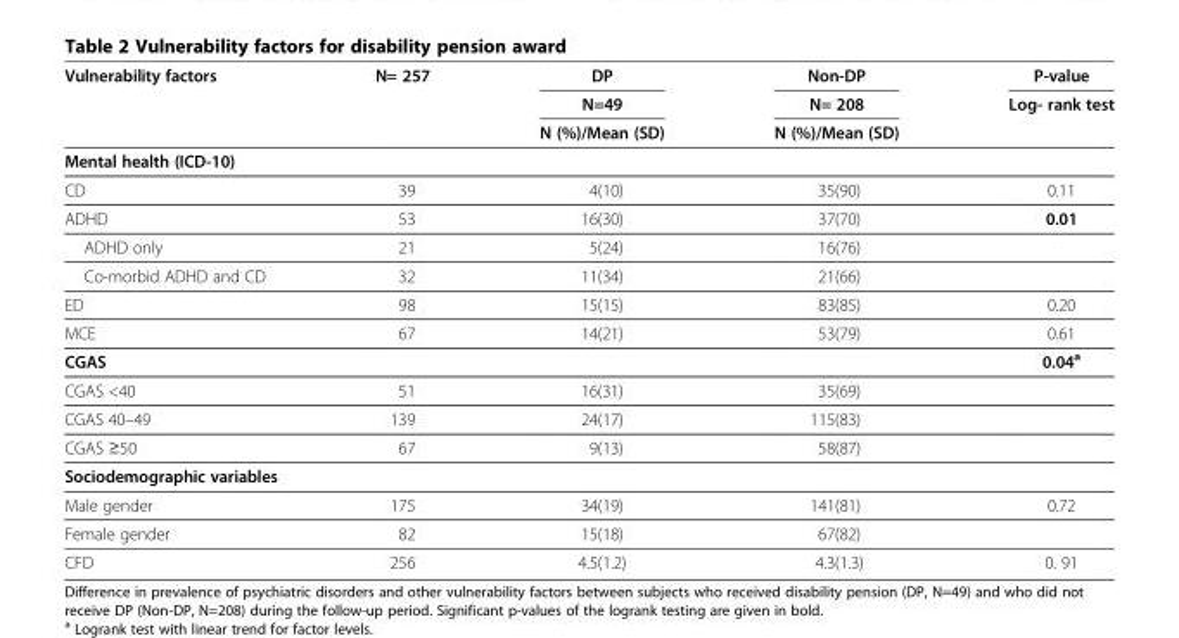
<table><thead><tr><td rowspan="3">Vulnerability factors</td><td rowspan="3">N= 257</td><td rowspan="3">DP N=49 N (%)/Mean (SD)</td><td rowspan="3">Non-DP N= 208 N (%)/Mean (SD)</td><td rowspan="3">P-value Log- rank test</td></tr><tr></tr><tr></tr></thead><tbody><tr><td colspan="5">Mental health (ICD-10)</td></tr><tr><td>CD</td><td>39</td><td>4(10)</td><td>35(90)</td><td>0.11</td></tr><tr><td>ADHD</td><td>53</td><td>16(30)</td><td>37(70)</td><td>0.01</td></tr><tr><td>ADHD only</td><td>21</td><td>5(24)</td><td>16(76)</td><td></td></tr><tr><td>Co-morbid ADHD and CD</td><td>32</td><td>11(34)</td><td>21(66)</td><td></td></tr><tr><td>ED</td><td>98</td><td>15(15)</td><td>83(85)</td><td>0.20</td></tr><tr><td>MCE</td><td>67</td><td>14(21)</td><td>53(79)</td><td>0.61</td></tr><tr><td>CGAS</td><td></td><td></td><td></td><td>0.04<sup>a</sup></td></tr><tr><td>CGAS &lt;40</td><td>51</td><td>16(31)</td><td>35(69)</td><td></td></tr><tr><td>CGAS 40–49</td><td>139</td><td>24(17)</td><td>115(83)</td><td></td></tr><tr><td>CGAS ≥50</td><td>67</td><td>9(13)</td><td>58(87)</td><td></td></tr><tr><td colspan="5">Sociodemographic variables</td></tr><tr><td>Male gender</td><td>175</td><td>34(19)</td><td>141(81)</td><td>0.72</td></tr><tr><td>Female gender</td><td>82</td><td>15(18)</td><td>67(82)</td><td></td></tr><tr><td>CFD</td><td>256</td><td>4.5(1.2)</td><td>4.3(1.3)</td><td>0. 91</td></tr></tbody></table>